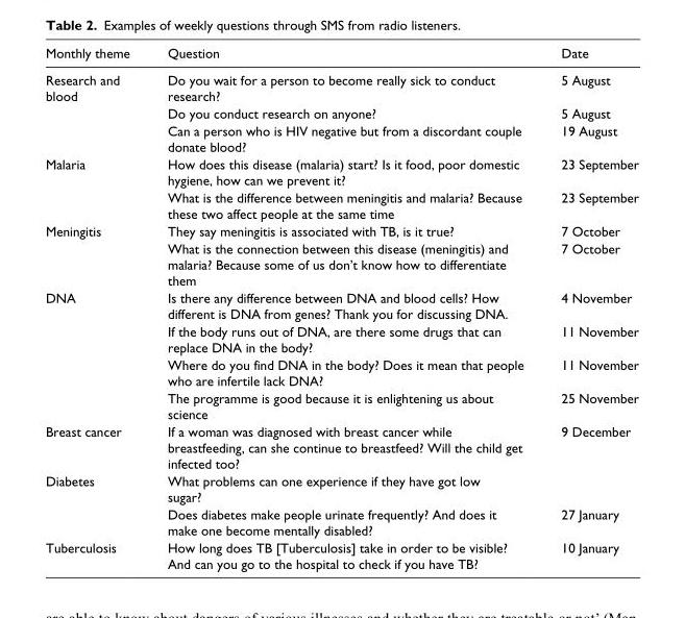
<table><thead><tr><td>Monthly theme</td><td>Question</td><td>Date</td></tr></thead><tbody><tr><td rowspan="3">Research and blood</td><td>Do you wait for a person to become really sick to conduct research?</td><td>5 August</td></tr><tr><td>Do you conduct research on anyone?</td><td>5 August</td></tr><tr><td>Can a person who is HIV negative but from a discordant couple donate blood?</td><td>19 August</td></tr><tr><td rowspan="2">Malaria</td><td>How does this disease (malaria) start? Is it food, poor domestic hygiene, how can we prevent it?</td><td>23 September</td></tr><tr><td>What is the difference between meningitis and malaria? Because these two affect people at the same time</td><td>23 September</td></tr><tr><td rowspan="2">Meningitis</td><td>They say meningitis is associated with TB, is it true?</td><td>7 October</td></tr><tr><td>What is the connection between this disease (meningitis) and malaria? Because some of us don’t know how to differentiate them</td><td>7 October</td></tr><tr><td rowspan="4">DNA</td><td>Is there any difference between DNA and blood cells? How different is DNA from genes? Thank you for discussing DNA.</td><td>4 November</td></tr><tr><td>If the body runs out of DNA, are there some drugs that can replace DNA in the body?</td><td>11 November</td></tr><tr><td>Where do you find DNA in the body? Does it mean that people who are infertile lack DNA?</td><td>11 November</td></tr><tr><td>The programme is good because it is enlightening us about science</td><td>25 November</td></tr><tr><td>Breast cancer</td><td>If a woman was diagnosed with breast cancer while breastfeeding, can she continue to breastfeed? Will the child get infected too?</td><td>9 December</td></tr><tr><td rowspan="2">Diabetes</td><td>What problems can one experience if they have got low sugar?</td><td></td></tr><tr><td>Does diabetes make people urinate frequently? And does it make one become mentally disabled?</td><td>27 January</td></tr><tr><td>Tuberculosis</td><td>How long does TB [Tuberculosis] take in order to be visible? And can you go to the hospital to check if you have TB?</td><td>10 January</td></tr></tbody></table>